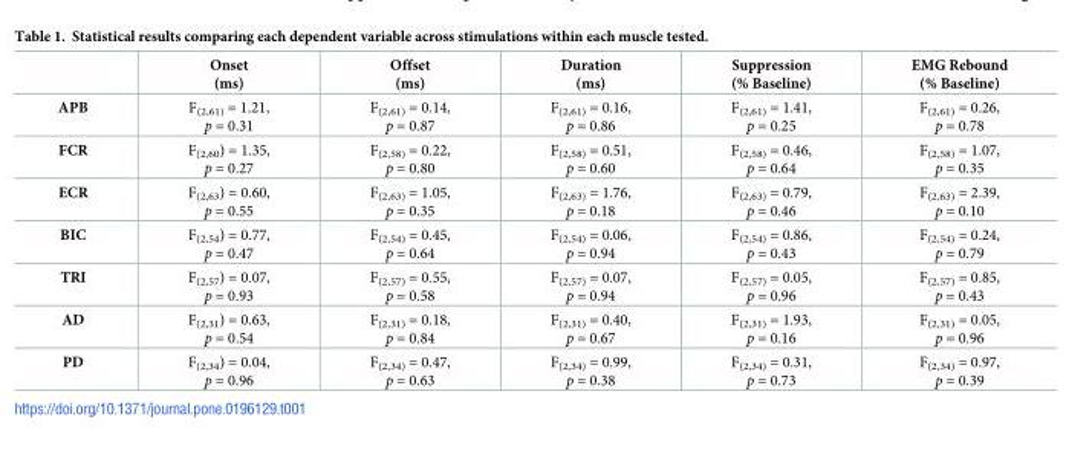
<table><thead><tr><td></td><td>Onset (ms)</td><td>Offset (ms)</td><td>Duration (ms)</td><td>Suppression (% Baseline)</td><td>EMG Rebound (% Baseline)</td></tr></thead><tbody><tr><td>APB</td><td>F<sub>(2,61)</sub> = 1.21, p = 0.31</td><td>F<sub>(2,61)</sub> = 0.14, p = 0.87</td><td>F<sub>(2,61)</sub> = 0.16, p = 0.86</td><td>F<sub>(2,61)</sub> = 1.41, p = 0.25</td><td>F<sub>(2,61)</sub> = 0.26, p = 0.78</td></tr><tr><td>FCR</td><td>F<sub>(2,60</sub>) = 1.35, p = 0.27</td><td>F<sub>(2,58)</sub> = 0.22, p = 0.80</td><td>F<sub>(2,58)</sub> = 0.51, p = 0.60</td><td>F<sub>(2,58)</sub> = 0.46, p = 0.64</td><td>F<sub>(2,58)</sub> = 1.07, p = 0.35</td></tr><tr><td>ECR</td><td>F<sub>(2,63</sub>) = 0.60, p = 0.55</td><td>F<sub>(2,63)</sub> = 1.05, p = 0.35</td><td>F<sub>(2,63)</sub> = 1.76, p = 0.18</td><td>F<sub>(2,63)</sub> = 0.79, p = 0.46</td><td>F<sub>(2,63)</sub> = 2.39, p = 0.10</td></tr><tr><td>BIC</td><td>F<sub>(2,54</sub>) = 0.77, p = 0.47</td><td>F<sub>(2,54)</sub> = 0.45, p = 0.64</td><td>F<sub>(2,54)</sub> = 0.06, p = 0.94</td><td>F<sub>(2,54)</sub> = 0.86, p = 0.43</td><td>F<sub>(2,54)</sub> = 0.24, p = 0.79</td></tr><tr><td>TRI</td><td>F<sub>(2,57</sub>) = 0.07, p = 0.93</td><td>F<sub>(2,57)</sub> = 0.55, p = 0.58</td><td>F<sub>(2,57)</sub> = 0.07, p = 0.94</td><td>F<sub>(2,57)</sub> = 0.05, p = 0.96</td><td>F<sub>(2,57)</sub> = 0.85, p = 0.43</td></tr><tr><td>AD</td><td>F<sub>(2,31</sub>) = 0.63, p = 0.54</td><td>F<sub>(2,31)</sub> = 0.18, p = 0.84</td><td>F<sub>(2,31)</sub> = 0.40, p = 0.67</td><td>F<sub>(2,31)</sub> = 1.93, p = 0.16</td><td>F<sub>(2,31)</sub> = 0.05, p = 0.96</td></tr><tr><td>PD</td><td>F<sub>(2,34</sub>) = 0.04, p = 0.96</td><td>F<sub>(2,34)</sub> = 0.47, p = 0.63</td><td>F<sub>(2,34)</sub> = 0.99, p = 0.38</td><td>F<sub>(2,34)</sub> = 0.31, p = 0.73</td><td>F<sub>(2,34)</sub> = 0.97, p = 0.39</td></tr></tbody></table>